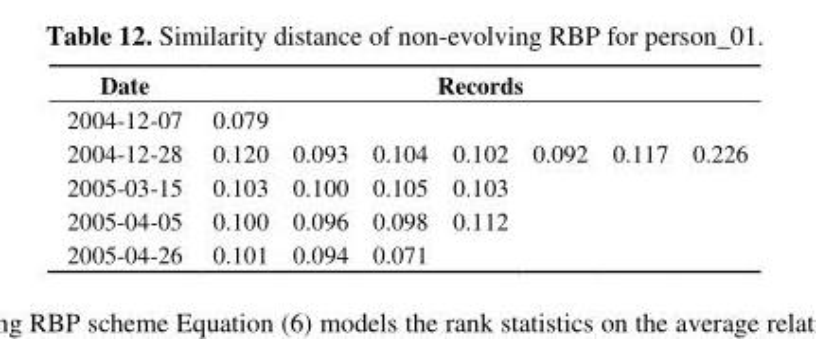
<table><thead><tr><td rowspan="2">Date 2004-12-07</td><td colspan="7">Records</td></tr><tr><td>0.079</td><td></td><td></td><td></td><td></td><td></td><td></td></tr></thead><tbody><tr><td>2004-12-28</td><td>0.120</td><td>0.093</td><td>0.104</td><td>0.102</td><td>0.092</td><td>0.117</td><td>0.226</td></tr><tr><td>2005-03-15</td><td>0.103</td><td>0.100</td><td>0.105</td><td>0.103</td><td></td><td></td><td></td></tr><tr><td>2005-04-05</td><td>0.100</td><td>0.096</td><td>0.098</td><td>0.112</td><td></td><td></td><td></td></tr><tr><td>2005-04-26</td><td>0.101</td><td>0.094</td><td>0.071</td><td></td><td></td><td></td><td></td></tr></tbody></table>